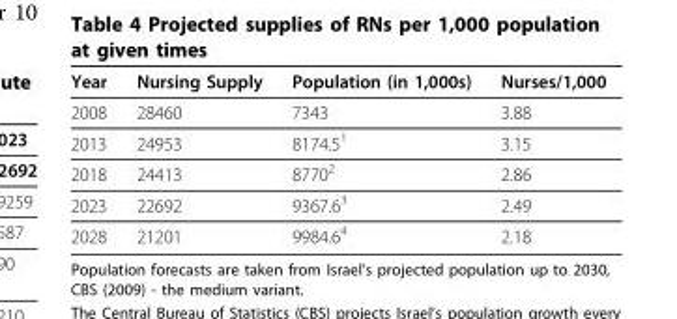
<table><thead><tr><td>Year</td><td>Nursing Supply</td><td>Population (in 1,000s)</td><td>Nurses/1,000</td></tr></thead><tbody><tr><td>2008</td><td>28460</td><td>7343</td><td>3.88</td></tr><tr><td>2013</td><td>24953</td><td>8174.51</td><td>3.15</td></tr><tr><td>2018</td><td>24413</td><td>87702</td><td>2.86</td></tr><tr><td>2023</td><td>22692</td><td>9367.63</td><td>2.49</td></tr><tr><td>2028</td><td>21201</td><td>9984.64</td><td>2.18</td></tr></tbody></table>